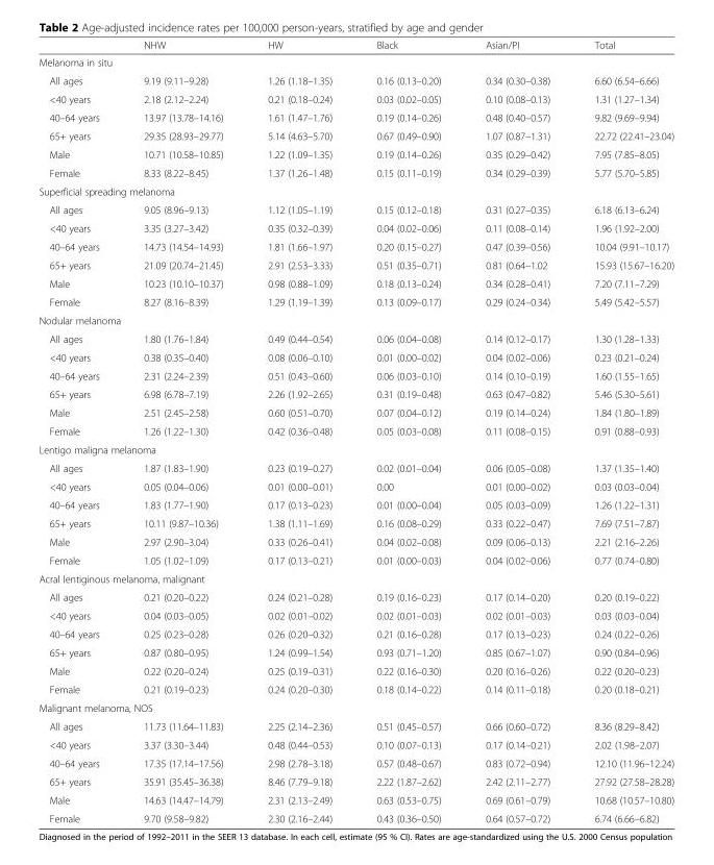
<table><thead><tr><td></td><td>NHW</td><td>HW</td><td>Black</td><td>Asian/PI</td><td>Total</td></tr></thead><tbody><tr><td colspan="6">Melanoma in situ</td></tr><tr><td>All ages</td><td>9.19 (9.11–9.28)</td><td>1.26 (1.18–1.35)</td><td>0.16 (0.13–0.20)</td><td>0.34 (0.30–0.38)</td><td>6.60 (6.54–6.66)</td></tr><tr><td>&lt;40 years</td><td>2.18 (2.12–2.24)</td><td>0.21 (0.18–0.24)</td><td>0.03 (0.02–0.05)</td><td>0.10 (0.08–0.13)</td><td>1.31 (1.27–1.34)</td></tr><tr><td>40–64 years</td><td>13.97 (13.78–14.16)</td><td>1.61 (1.47–1.76)</td><td>0.19 (0.14–0.26)</td><td>0.48 (0.40–0.57)</td><td>9.82 (9.69–9.94)</td></tr><tr><td>65+ years</td><td>29.35 (28.93–29.77)</td><td>5.14 (4.63–5.70)</td><td>0.67 (0.49–0.90)</td><td>1.07 (0.87–1.31)</td><td>22.72 (22.41–23.04)</td></tr><tr><td>Male</td><td>10.71 (10.58–10.85)</td><td>1.22 (1.09–1.35)</td><td>0.19 (0.14–0.26)</td><td>0.35 (0.29–0.42)</td><td>7.95 (7.85–8.05)</td></tr><tr><td>Female</td><td>8.33 (8.22–8.45)</td><td>1.37 (1.26–1.48)</td><td>0.15 (0.11–0.19)</td><td>0.34 (0.29–0.39)</td><td>5.77 (5.70–5.85)</td></tr><tr><td colspan="6">Superficial spreading melanoma</td></tr><tr><td>All ages</td><td>9.05 (8.96–9.13)</td><td>1.12 (1.05–1.19)</td><td>0.15 (0.12–0.18)</td><td>0.31 (0.27–0.35)</td><td>6.18 (6.13–6.24)</td></tr><tr><td>&lt;40 years</td><td>3.35 (3.27–3.42)</td><td>0.35 (0.32–0.39)</td><td>0.04 (0.02–0.06)</td><td>0.11 (0.08–0.14)</td><td>1.96 (1.92–2.00)</td></tr><tr><td>40–64 years</td><td>14.73 (14.54–14.93)</td><td>1.81 (1.66–1.97)</td><td>0.20 (0.15–0.27)</td><td>0.47 (0.39–0.56)</td><td>10.04 (9.91–10.17)</td></tr><tr><td>65+ years</td><td>21.09 (20.74–21.45)</td><td>2.91 (2.53–3.33)</td><td>0.51 (0.35–0.71)</td><td>0.81 (0.64–1.02</td><td>15.93 (15.67–16.20)</td></tr><tr><td>Male</td><td>10.23 (10.10–10.37)</td><td>0.98 (0.88–1.09)</td><td>0.18 (0.13–0.24)</td><td>0.34 (0.28–0.41)</td><td>7.20 (7.11–7.29)</td></tr><tr><td>Female</td><td>8.27 (8.16–8.39)</td><td>1.29 (1.19–1.39)</td><td>0.13 (0.09–0.17)</td><td>0.29 (0.24–0.34)</td><td>5.49 (5.42–5.57)</td></tr><tr><td colspan="6">Nodular melanoma</td></tr><tr><td>All ages</td><td>1.80 (1.76–1.84)</td><td>0.49 (0.44–0.54)</td><td>0.06 (0.04–0.08)</td><td>0.14 (0.12–0.17)</td><td>1.30 (1.28–1.33)</td></tr><tr><td>&lt;40 years</td><td>0.38 (0.35–0.40)</td><td>0.08 (0.06–0.10)</td><td>0.01 (0.00–0.02)</td><td>0.04 (0.02–0.06)</td><td>0.23 (0.21–0.24)</td></tr><tr><td>40–64 years</td><td>2.31 (2.24–2.39)</td><td>0.51 (0.43–0.60)</td><td>0.06 (0.03–0.10)</td><td>0.14 (0.10–0.19)</td><td>1.60 (1.55–1.65)</td></tr><tr><td>65+ years</td><td>6.98 (6.78–7.19)</td><td>2.26 (1.92–2.65)</td><td>0.31 (0.19–0.48)</td><td>0.63 (0.47–0.82)</td><td>5.46 (5.30–5.61)</td></tr><tr><td>Male</td><td>2.51 (2.45–2.58)</td><td>0.60 (0.51–0.70)</td><td>0.07 (0.04–0.12)</td><td>0.19 (0.14–0.24)</td><td>1.84 (1.80–1.89)</td></tr><tr><td>Female</td><td>1.26 (1.22–1.30)</td><td>0.42 (0.36–0.48)</td><td>0.05 (0.03–0.08)</td><td>0.11 (0.08–0.15)</td><td>0.91 (0.88–0.93)</td></tr><tr><td colspan="6">Lentigo maligna melanoma</td></tr><tr><td>All ages</td><td>1.87 (1.83–1.90)</td><td>0.23 (0.19–0.27)</td><td>0.02 (0.01–0.04)</td><td>0.06 (0.05–0.08)</td><td>1.37 (1.35–1.40)</td></tr><tr><td>&lt;40 years</td><td>0.05 (0.04–0.06)</td><td>0.01 (0.00–0.01)</td><td>0.00</td><td>0.01 (0.00–0.02)</td><td>0.03 (0.03–0.04)</td></tr><tr><td>40–64 years</td><td>1.83 (1.77–1.90)</td><td>0.17 (0.13–0.23)</td><td>0.01 (0.00–0.04)</td><td>0.05 (0.03–0.09)</td><td>1.26 (1.22–1.31)</td></tr><tr><td>65+ years</td><td>10.11 (9.87–10.36)</td><td>1.38 (1.11–1.69)</td><td>0.16 (0.08–0.29)</td><td>0.33 (0.22–0.47)</td><td>7.69 (7.51–7.87)</td></tr><tr><td>Male</td><td>2.97 (2.90–3.04)</td><td>0.33 (0.26–0.41)</td><td>0.04 (0.02–0.08)</td><td>0.09 (0.06–0.13)</td><td>2.21 (2.16–2.26)</td></tr><tr><td>Female</td><td>1.05 (1.02–1.09)</td><td>0.17 (0.13–0.21)</td><td>0.01 (0.00–0.03)</td><td>0.04 (0.02–0.06)</td><td>0.77 (0.74–0.80)</td></tr><tr><td colspan="6">Acral lentiginous melanoma, malignant</td></tr><tr><td>All ages</td><td>0.21 (0.20–0.22)</td><td>0.24 (0.21–0.28)</td><td>0.19 (0.16–0.23)</td><td>0.17 (0.14–0.20)</td><td>0.20 (0.19–0.22)</td></tr><tr><td>&lt;40 years</td><td>0.04 (0.03–0.05)</td><td>0.02 (0.01–0.02)</td><td>0.02 (0.01–0.03)</td><td>0.02 (0.01–0.03)</td><td>0.03 (0.03–0.04)</td></tr><tr><td>40–64 years</td><td>0.25 (0.23–0.28)</td><td>0.26 (0.20–0.32)</td><td>0.21 (0.16–0.28)</td><td>0.17 (0.13–0.23)</td><td>0.24 (0.22–0.26)</td></tr><tr><td>65+ years</td><td>0.87 (0.80–0.95)</td><td>1.24 (0.99–1.54)</td><td>0.93 (0.71–1.20)</td><td>0.85 (0.67–1.07)</td><td>0.90 (0.84–0.96)</td></tr><tr><td>Male</td><td>0.22 (0.20–0.24)</td><td>0.25 (0.19–0.31)</td><td>0.22 (0.16–0.30)</td><td>0.20 (0.16–0.26)</td><td>0.22 (0.20–0.23)</td></tr><tr><td>Female</td><td>0.21 (0.19–0.23)</td><td>0.24 (0.20–0.30)</td><td>0.18 (0.14–0.22)</td><td>0.14 (0.11–0.18)</td><td>0.20 (0.18–0.21)</td></tr><tr><td colspan="6">Malignant melanoma, NOS</td></tr><tr><td>All ages</td><td>11.73 (11.64–11.83)</td><td>2.25 (2.14–2.36)</td><td>0.51 (0.45–0.57)</td><td>0.66 (0.60–0.72)</td><td>8.36 (8.29–8.42)</td></tr><tr><td>&lt;40 years</td><td>3.37 (3.30–3.44)</td><td>0.48 (0.44–0.53)</td><td>0.10 (0.07–0.13)</td><td>0.17 (0.14–0.21)</td><td>2.02 (1.98–2.07)</td></tr><tr><td>40–64 years</td><td>17.35 (17.14–17.56)</td><td>2.98 (2.78–3.18)</td><td>0.57 (0.48–0.67)</td><td>0.83 (0.72–0.94)</td><td>12.10 (11.96–12.24)</td></tr><tr><td>65+ years</td><td>35.91 (35.45–36.38)</td><td>8.46 (7.79–9.18)</td><td>2.22 (1.87–2.62)</td><td>2.42 (2.11–2.77)</td><td>27.92 (27.58–28.28)</td></tr><tr><td>Male</td><td>14.63 (14.47–14.79)</td><td>2.31 (2.13–2.49)</td><td>0.63 (0.53–0.75)</td><td>0.69 (0.61–0.79)</td><td>10.68 (10.57–10.80)</td></tr><tr><td>Female</td><td>9.70 (9.58–9.82)</td><td>2.30 (2.16–2.44)</td><td>0.43 (0.36–0.50)</td><td>0.64 (0.57–0.72)</td><td>6.74 (6.66–6.82)</td></tr></tbody></table>